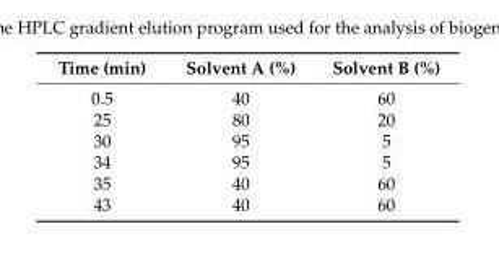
<table><thead><tr><td>Time (min)</td><td>Solvent A (%)</td><td>Solvent B (%)</td></tr></thead><tbody><tr><td>0.5</td><td>40</td><td>60</td></tr><tr><td>25</td><td>80</td><td>20</td></tr><tr><td>30</td><td>95</td><td>5</td></tr><tr><td>34</td><td>95</td><td>5</td></tr><tr><td>35</td><td>40</td><td>60</td></tr><tr><td>43</td><td>40</td><td>60</td></tr></tbody></table>